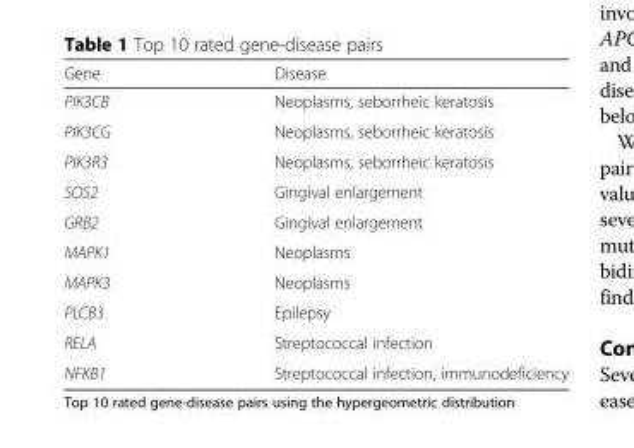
<table><thead><tr><td>Gene</td><td>Disease</td></tr></thead><tbody><tr><td>PIK3CB</td><td>Neoplasms, seborrheic keratosis</td></tr><tr><td>PIK3CG</td><td>Neoplasms, seborrheic keratosis</td></tr><tr><td>PIK3R3</td><td>Neoplasms, seborrheic keratosis</td></tr><tr><td>SOS2</td><td>Gingival enlargement</td></tr><tr><td>GRB2</td><td>Gingival enlargement</td></tr><tr><td>MAPK1</td><td>Neoplasms</td></tr><tr><td>MAPK3</td><td>Neoplasms</td></tr><tr><td>PLCB3</td><td>Epilepsy</td></tr><tr><td>RELA</td><td>Streptococcal infection</td></tr><tr><td>NFKB1</td><td>Streptococcal infection, immunodeficiency</td></tr></tbody></table>